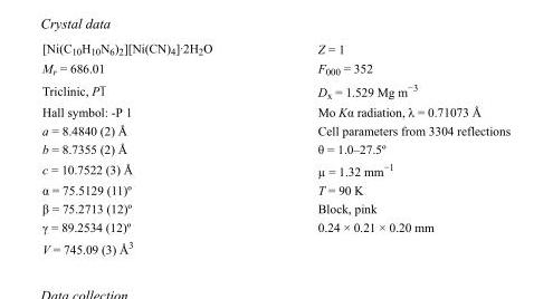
<table><tbody><tr><td>[Ni(C<sub>10</sub>H<sub>10</sub>N<sub>6</sub>)<sub>2</sub>][Ni(CN)<sub>4</sub>]·2H<sub>2</sub>O</td><td>Z = 1</td></tr><tr><td>M<sub>r</sub> = 686.01</td><td>F000 = 352</td></tr><tr><td>Triclinic, P1</td><td>D<sub>x</sub> = 1.529 Mg m<sup>−3</sup></td></tr><tr><td>Hall symbol: -P 1</td><td>Mo Kα radiation, λ = 0.71073 Å</td></tr><tr><td>a = 8.4840 (2) Å</td><td>Cell parameters from 3304 reflections</td></tr><tr><td>b = 8.7355 (2) Å</td><td>θ = 1.0–27.5º</td></tr><tr><td>c = 10.7522 (3) Å</td><td>µ = 1.32 mm<sup>−1</sup></td></tr><tr><td>α = 75.5129 (11)º</td><td>T = 90 K</td></tr><tr><td>β = 75.2713 (12)º</td><td>Block, pink</td></tr><tr><td>γ = 89.2534 (12)º</td><td>0.24 × 0.21 × 0.20 mm</td></tr><tr><td>V = 745.09 (3) Å<sup>3</sup></td><td></td></tr></tbody></table>